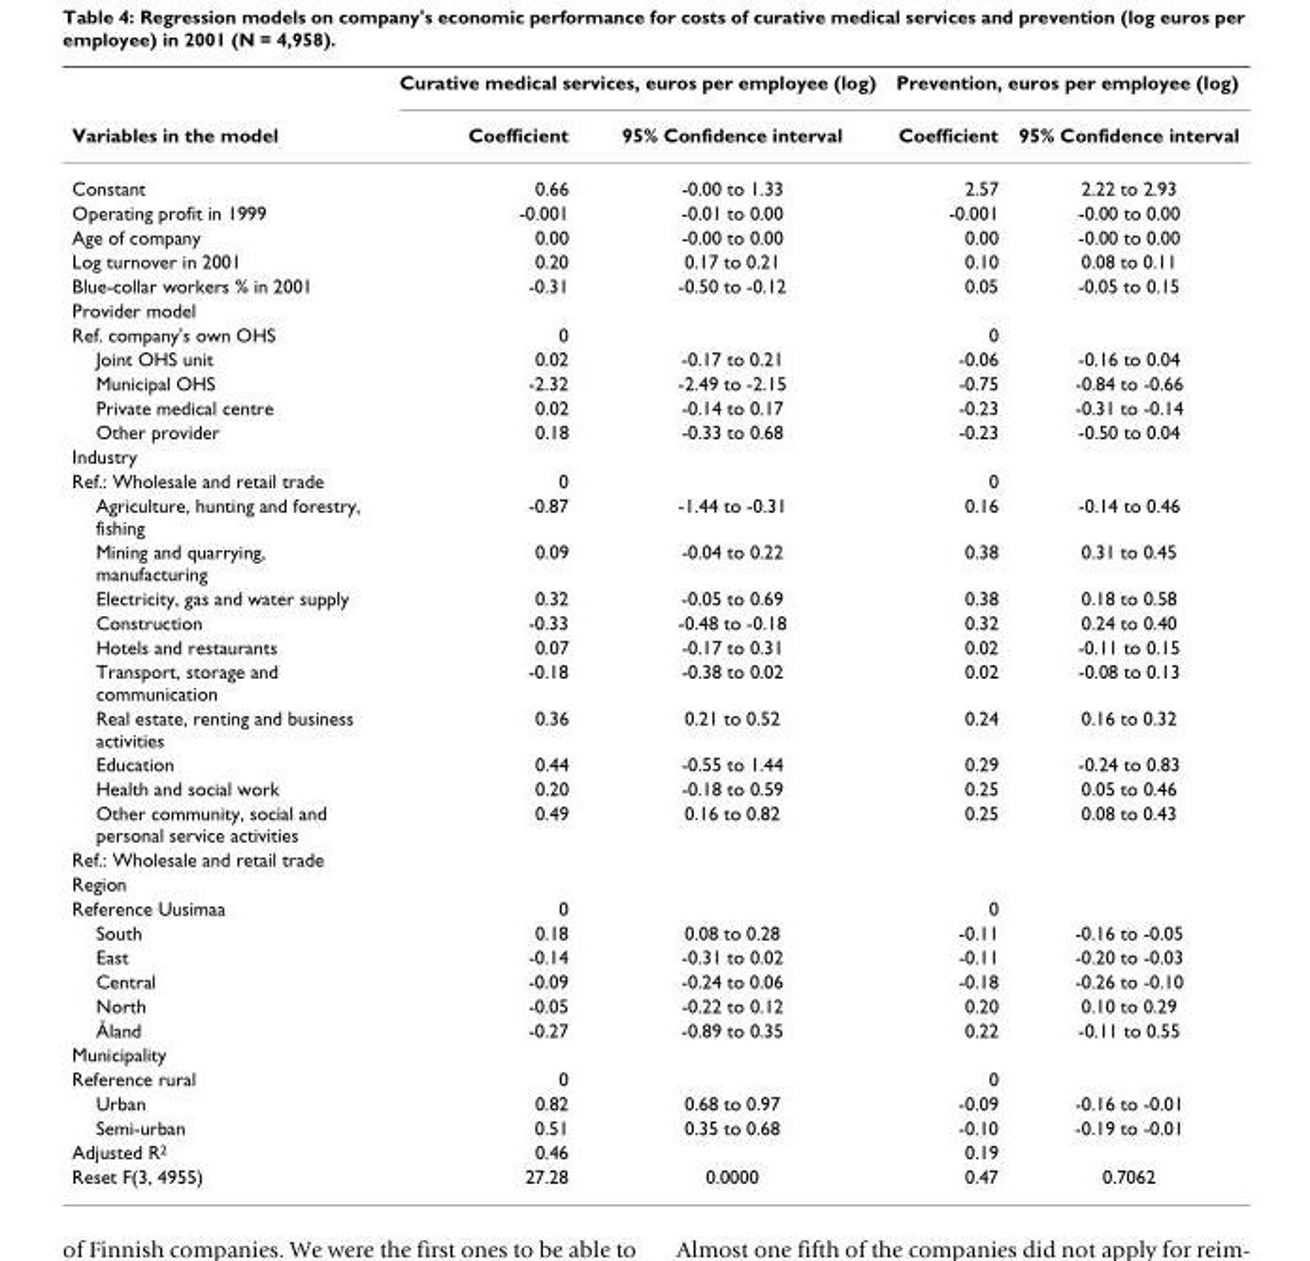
<table><thead><tr><td rowspan="2">Variables in the model</td><td colspan="2">Curative medical services, euros per employee (log)</td><td colspan="2">Prevention, euros per employee (log)</td></tr><tr><td>Coefficient</td><td>95% Confidence interval</td><td>Coefficient</td><td>95% Confidence interval</td></tr></thead><tbody><tr><td>Constant</td><td>0.66</td><td>-0.00 to 1.33</td><td>2.57</td><td>2.22 to 2.93</td></tr><tr><td>Operating profit in 1999</td><td>-0.001</td><td>-0.01 to 0.00</td><td>-0.001</td><td>-0.00 to 0.00</td></tr><tr><td>Age of company</td><td>0.00</td><td>-0.00 to 0.00</td><td>0.00</td><td>-0.00 to 0.00</td></tr><tr><td>Log turnover in 2001</td><td>0.20</td><td>0.17 to 0.21</td><td>0.10</td><td>0.08 to 0.11</td></tr><tr><td>Blue-collar workers % in 2001</td><td>-0.31</td><td>-0.50 to -0.12</td><td>0.05</td><td>-0.05 to 0.15</td></tr><tr><td colspan="5">Provider model</td></tr><tr><td>Ref. company&#x27;s own OHS</td><td>0</td><td></td><td>0</td><td></td></tr><tr><td>Joint OHS unit</td><td>0.02</td><td>-0.17 to 0.21</td><td>-0.06</td><td>-0.16 to 0.04</td></tr><tr><td>Municipal OHS</td><td>-2.32</td><td>-2.49 to -2.15</td><td>-0.75</td><td>-0.84 to -0.66</td></tr><tr><td>Private medical centre</td><td>0.02</td><td>-0.14 to 0.17</td><td>-0.23</td><td>-0.31 to -0.14</td></tr><tr><td>Other provider</td><td>0.18</td><td>-0.33 to 0.68</td><td>-0.23</td><td>-0.50 to 0.04</td></tr><tr><td colspan="5">Industry</td></tr><tr><td>Ref.: Wholesale and retail trade</td><td>0</td><td></td><td>0</td><td></td></tr><tr><td>Agriculture, hunting and forestry, fishing</td><td>-0.87</td><td>-1.44 to -0.31</td><td>0.16</td><td>-0.14 to 0.46</td></tr><tr><td>Mining and quarrying, manufacturing</td><td>0.09</td><td>-0.04 to 0.22</td><td>0.38</td><td>0.31 to 0.45</td></tr><tr><td>Electricity, gas and water supply</td><td>0.32</td><td>-0.05 to 0.69</td><td>0.38</td><td>0.18 to 0.58</td></tr><tr><td>Construction</td><td>-0.33</td><td>-0.48 to -0.18</td><td>0.32</td><td>0.24 to 0.40</td></tr><tr><td>Hotels and restaurants</td><td>0.07</td><td>-0.17 to 0.31</td><td>0.02</td><td>-0.11 to 0.15</td></tr><tr><td>Transport, storage and communication</td><td>-0.18</td><td>-0.38 to 0.02</td><td>0.02</td><td>-0.08 to 0.13</td></tr><tr><td>Real estate, renting and business activities</td><td>0.36</td><td>0.21 to 0.52</td><td>0.24</td><td>0.16 to 0.32</td></tr><tr><td>Education</td><td>0.44</td><td>-0.55 to 1.44</td><td>0.29</td><td>-0.24 to 0.83</td></tr><tr><td>Health and social work</td><td>0.20</td><td>-0.18 to 0.59</td><td>0.25</td><td>0.05 to 0.46</td></tr><tr><td>Other community, social and personal service activities</td><td>0.49</td><td>0.16 to 0.82</td><td>0.25</td><td>0.08 to 0.43</td></tr><tr><td colspan="5">Ref.: Wholesale and retail trade</td></tr><tr><td colspan="5">Region</td></tr><tr><td>Reference Uusimaa</td><td>0</td><td></td><td>0</td><td></td></tr><tr><td>South</td><td>0.18</td><td>0.08 to 0.28</td><td>-0.11</td><td>-0.16 to -0.05</td></tr><tr><td>East</td><td>-0.14</td><td>-0.31 to 0.02</td><td>-0.11</td><td>-0.20 to -0.03</td></tr><tr><td>Central</td><td>-0.09</td><td>-0.24 to 0.06</td><td>-0.18</td><td>-0.26 to -0.10</td></tr><tr><td>North</td><td>-0.05</td><td>-0.22 to 0.12</td><td>0.20</td><td>0.10 to 0.29</td></tr><tr><td>Åland</td><td>-0.27</td><td>-0.89 to 0.35</td><td>0.22</td><td>-0.11 to 0.55</td></tr><tr><td colspan="5">Municipality</td></tr><tr><td>Reference rural</td><td>0</td><td></td><td>0</td><td></td></tr><tr><td>Urban</td><td>0.82</td><td>0.68 to 0.97</td><td>-0.09</td><td>-0.16 to -0.01</td></tr><tr><td>Semi-urban</td><td>0.51</td><td>0.35 to 0.68</td><td>-0.10</td><td>-0.19 to -0.01</td></tr><tr><td>Adjusted R<sup>2</sup></td><td>0.46</td><td></td><td>0.19</td><td></td></tr><tr><td>Reset F(3, 4955)</td><td>27.28</td><td>0.0000</td><td>0.47</td><td>0.7062</td></tr></tbody></table>